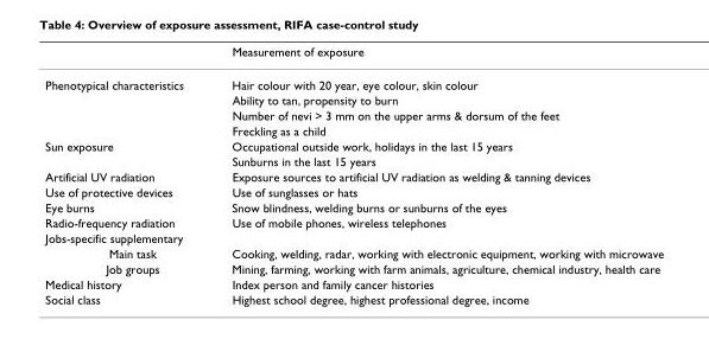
<table><thead><tr><td></td><td>Measurement of exposure</td></tr></thead><tbody><tr><td rowspan="4">Phenotypical characteristics</td><td>Hair colour with 20 year, eye colour, skin colour</td></tr><tr><td>Ability to tan, propensity to burn</td></tr><tr><td>Number of nevi &gt; 3 mm on the upper arms &amp; dorsum of the feet</td></tr><tr><td>Freckling as a child</td></tr><tr><td rowspan="2">Sun exposure</td><td>Occupational outside work, holidays in the last 15 years</td></tr><tr><td>Sunburns in the last 15 years</td></tr><tr><td>Artificial UV radiation</td><td>Exposure sources to artificial UV radiation as welding &amp; tanning devices</td></tr><tr><td>Use of protective devices</td><td>Use of sunglasses or hats</td></tr><tr><td>Eye burns</td><td>Snow blindness, welding burns or sunburns of the eyes</td></tr><tr><td>Radio-frequency radiation</td><td>Use of mobile phones, wireless telephones</td></tr><tr><td colspan="2">Jobs-specific supplementary</td></tr><tr><td>Main task</td><td>Cooking, welding, radar, working with electronic equipment, working with microwave</td></tr><tr><td>Job groups</td><td>Mining, farming, working with farm animals, agriculture, chemical industry, health care</td></tr><tr><td>Medical history</td><td>Index person and family cancer histories</td></tr><tr><td>Social class</td><td>Highest school degree, highest professional degree, income</td></tr></tbody></table>